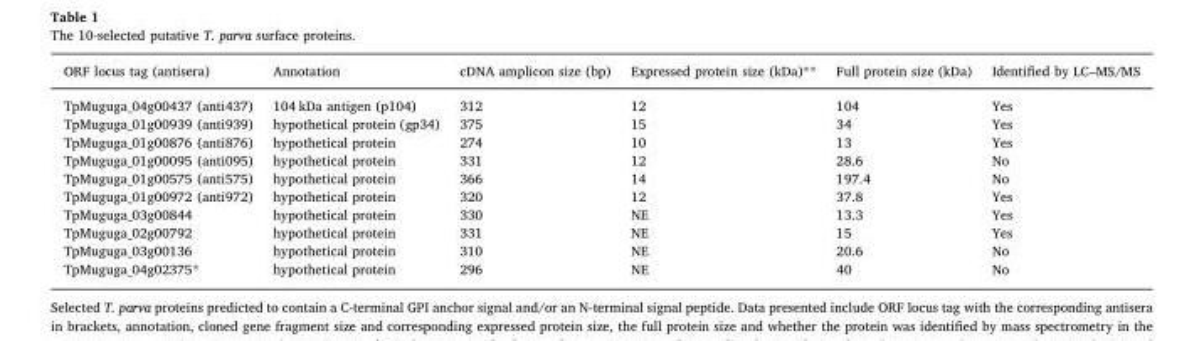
<table><thead><tr><td>ORF locus tag (antisera)</td><td>Annotation</td><td>cDNA amplicon size (bp)</td><td>Expressed protein size (kDa)**</td><td>Full protein size (kDa)</td><td>Identified by LC–MS/MS</td></tr></thead><tbody><tr><td>TpMuguga_04g00437 (anti437)</td><td>104 kDa antigen (p104)</td><td>312</td><td>12</td><td>104</td><td>Yes</td></tr><tr><td>TpMuguga_01g00939 (anti939)</td><td>hypothetical protein (gp34)</td><td>375</td><td>15</td><td>34</td><td>Yes</td></tr><tr><td>TpMuguga_01g00876 (anti876)</td><td>hypothetical protein</td><td>274</td><td>10</td><td>13</td><td>Yes</td></tr><tr><td>TpMuguga_01g00095 (anti095)</td><td>hypothetical protein</td><td>331</td><td>12</td><td>28.6</td><td>No</td></tr><tr><td>TpMuguga_01g00575 (anti575)</td><td>hypothetical protein</td><td>366</td><td>14</td><td>197.4</td><td>No</td></tr><tr><td>TpMuguga_01g00972 (anti972)</td><td>hypothetical protein</td><td>320</td><td>12</td><td>37.8</td><td>Yes</td></tr><tr><td>TpMuguga_03g00844</td><td>hypothetical protein</td><td>330</td><td>NE</td><td>13.3</td><td>Yes</td></tr><tr><td>TpMuguga_02g00792</td><td>hypothetical protein</td><td>331</td><td>NE</td><td>15</td><td>Yes</td></tr><tr><td>TpMuguga_03g00136</td><td>hypothetical protein</td><td>310</td><td>NE</td><td>20.6</td><td>No</td></tr><tr><td>TpMuguga_04g02375*</td><td>hypothetical protein</td><td>296</td><td>NE</td><td>40</td><td>No</td></tr></tbody></table>